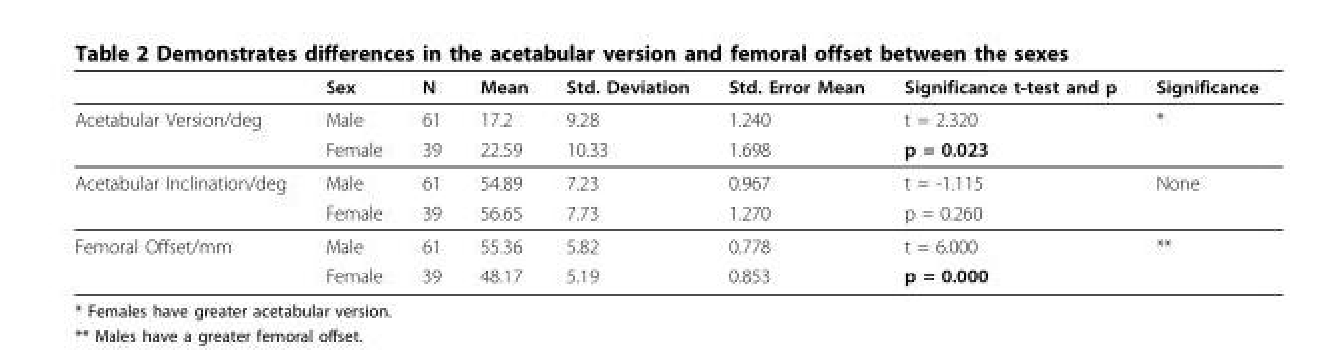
<table><thead><tr><td></td><td>Sex</td><td>N</td><td>Mean</td><td>Std. Deviation</td><td>Std. Error Mean</td><td>Significance t-test and p</td><td>Significance</td></tr></thead><tbody><tr><td rowspan="2">Acetabular Version/deg</td><td>Male</td><td>61</td><td>17.2</td><td>9.28</td><td>1.240</td><td>t = 2.320</td><td>*</td></tr><tr><td>Female</td><td>39</td><td>22.59</td><td>10.33</td><td>1.698</td><td>p = 0.023</td><td></td></tr><tr><td rowspan="2">Acetabular Inclination/deg</td><td>Male</td><td>61</td><td>54.89</td><td>7.23</td><td>0.967</td><td>t = -1.115</td><td>None</td></tr><tr><td>Female</td><td>39</td><td>56.65</td><td>7.73</td><td>1.270</td><td>p = 0.260</td><td></td></tr><tr><td rowspan="2">Femoral Offset/mm</td><td>Male</td><td>61</td><td>55.36</td><td>5.82</td><td>0.778</td><td>t = 6.000</td><td>**</td></tr><tr><td>Female</td><td>39</td><td>48.17</td><td>5.19</td><td>0.853</td><td>p = 0.000</td><td></td></tr></tbody></table>